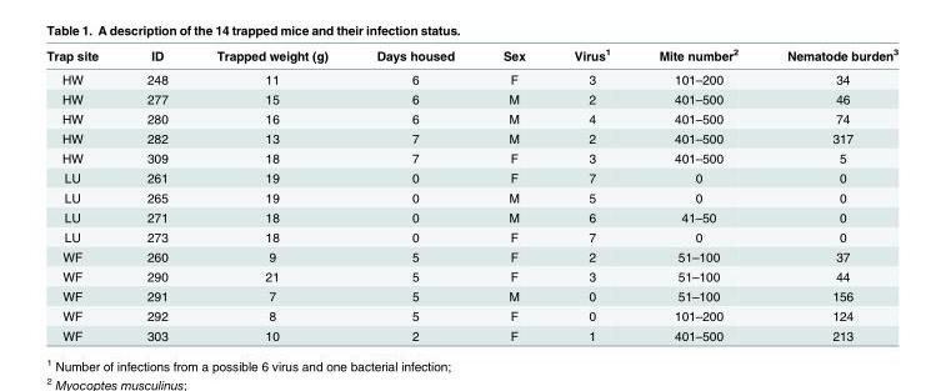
<table><thead><tr><td>Trap site</td><td>ID</td><td>Trapped weight (g)</td><td>Days housed</td><td>Sex</td><td>Virus<sup>1</sup></td><td>Mite number<sup>2</sup></td><td>Nematode burden<sup>3</sup></td></tr></thead><tbody><tr><td>HW</td><td>248</td><td>11</td><td>6</td><td>F</td><td>3</td><td>101–200</td><td>34</td></tr><tr><td>HW</td><td>277</td><td>15</td><td>6</td><td>M</td><td>2</td><td>401–500</td><td>46</td></tr><tr><td>HW</td><td>280</td><td>16</td><td>6</td><td>M</td><td>4</td><td>401–500</td><td>74</td></tr><tr><td>HW</td><td>282</td><td>13</td><td>7</td><td>M</td><td>2</td><td>401–500</td><td>317</td></tr><tr><td>HW</td><td>309</td><td>18</td><td>7</td><td>F</td><td>3</td><td>401–500</td><td>5</td></tr><tr><td>LU</td><td>261</td><td>19</td><td>0</td><td>F</td><td>7</td><td>0</td><td>0</td></tr><tr><td>LU</td><td>265</td><td>19</td><td>0</td><td>M</td><td>5</td><td>0</td><td>0</td></tr><tr><td>LU</td><td>271</td><td>18</td><td>0</td><td>M</td><td>6</td><td>41–50</td><td>0</td></tr><tr><td>LU</td><td>273</td><td>18</td><td>0</td><td>F</td><td>7</td><td>0</td><td>0</td></tr><tr><td>WF</td><td>260</td><td>9</td><td>5</td><td>F</td><td>2</td><td>51–100</td><td>37</td></tr><tr><td>WF</td><td>290</td><td>21</td><td>5</td><td>F</td><td>3</td><td>51–100</td><td>44</td></tr><tr><td>WF</td><td>291</td><td>7</td><td>5</td><td>M</td><td>0</td><td>51–100</td><td>156</td></tr><tr><td>WF</td><td>292</td><td>8</td><td>5</td><td>F</td><td>0</td><td>101–200</td><td>124</td></tr><tr><td>WF</td><td>303</td><td>10</td><td>2</td><td>F</td><td>1</td><td>401–500</td><td>213</td></tr></tbody></table>